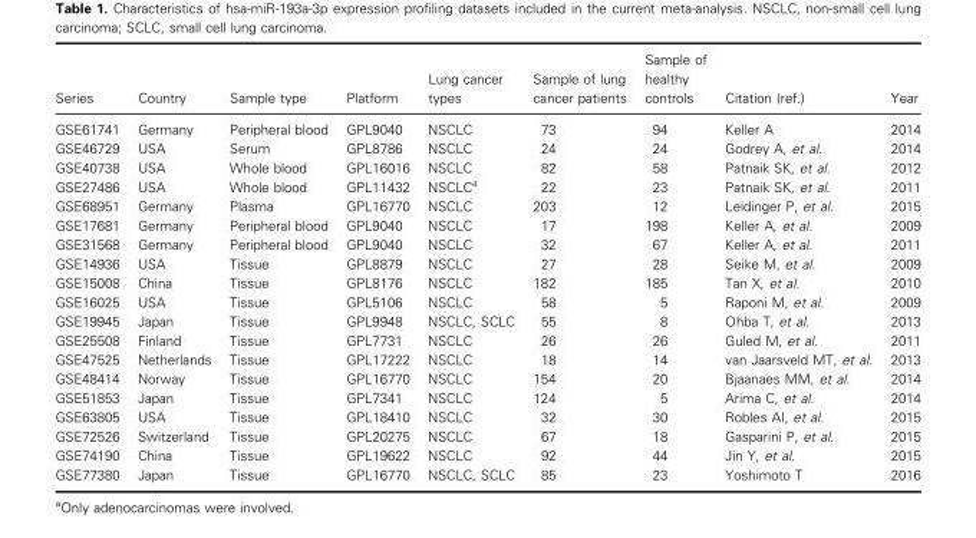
<table><thead><tr><td>Series</td><td>Country</td><td>Sample type</td><td>Platform</td><td>Lung cancer types</td><td>Sample of lung cancer patients</td><td>Sample of healthy controls</td><td>Citation (ref.)</td><td>Year</td></tr></thead><tbody><tr><td>GSE61741</td><td>Germany</td><td>Peripheral blood</td><td>GPL9040</td><td>NSCLC</td><td>73</td><td>94</td><td>Keller A</td><td>2014</td></tr><tr><td>GSE46729</td><td>USA</td><td>Serum</td><td>GPL8786</td><td>NSCLC</td><td>24</td><td>24</td><td>Godrey A, et al.</td><td>2014</td></tr><tr><td>GSE40738</td><td>USA</td><td>Whole blood</td><td>GPL16016</td><td>NSCLC</td><td>82</td><td>58</td><td>Patnaik SK, et al.</td><td>2012</td></tr><tr><td>GSE27486</td><td>USA</td><td>Whole blood</td><td>GPL11432</td><td>NSCLC<sup>a</sup></td><td>22</td><td>23</td><td>Patnaik SK, et al.</td><td>2011</td></tr><tr><td>GSE68951</td><td>Germany</td><td>Plasma</td><td>GPL16770</td><td>NSCLC</td><td>203</td><td>12</td><td>Leidinger P, et al.</td><td>2015</td></tr><tr><td>GSE17681</td><td>Germany</td><td>Peripheral blood</td><td>GPL9040</td><td>NSCLC</td><td>17</td><td>198</td><td>Keller A, et al.</td><td>2009</td></tr><tr><td>GSE31568</td><td>Germany</td><td>Peripheral blood</td><td>GPL9040</td><td>NSCLC</td><td>32</td><td>67</td><td>Keller A, et al.</td><td>2011</td></tr><tr><td>GSE14936</td><td>USA</td><td>Tissue</td><td>GPL8879</td><td>NSCLC</td><td>27</td><td>28</td><td>Seike M, et al.</td><td>2009</td></tr><tr><td>GSE15008</td><td>China</td><td>Tissue</td><td>GPL8176</td><td>NSCLC</td><td>182</td><td>185</td><td>Tan X, et al.</td><td>2010</td></tr><tr><td>GSE16025</td><td>USA</td><td>Tissue</td><td>GPL5106</td><td>NSCLC</td><td>58</td><td>5</td><td>Raponi M, et al.</td><td>2009</td></tr><tr><td>GSE19945</td><td>Japan</td><td>Tissue</td><td>GPL9948</td><td>NSCLC, SCLC</td><td>55</td><td>8</td><td>Ohba T, et al.</td><td>2013</td></tr><tr><td>GSE25508</td><td>Finland</td><td>Tissue</td><td>GPL7731</td><td>NSCLC</td><td>26</td><td>26</td><td>Guled M, et al.</td><td>2011</td></tr><tr><td>GSE47525</td><td>Netherlands</td><td>Tissue</td><td>GPL17222</td><td>NSCLC</td><td>18</td><td>14</td><td>van Jaarsveld MT, et al.</td><td>2013</td></tr><tr><td>GSE48414</td><td>Norway</td><td>Tissue</td><td>GPL16770</td><td>NSCLC</td><td>154</td><td>20</td><td>Bjaanaes MM, et al.</td><td>2014</td></tr><tr><td>GSE51853</td><td>Japan</td><td>Tissue</td><td>GPL7341</td><td>NSCLC</td><td>124</td><td>5</td><td>Arima C, et al.</td><td>2014</td></tr><tr><td>GSE63805</td><td>USA</td><td>Tissue</td><td>GPL18410</td><td>NSCLC</td><td>32</td><td>30</td><td>Robles AI, et al.</td><td>2015</td></tr><tr><td>GSE72526</td><td>Switzerland</td><td>Tissue</td><td>GPL20275</td><td>NSCLC</td><td>67</td><td>18</td><td>Gasparini P, et al.</td><td>2015</td></tr><tr><td>GSE74190</td><td>China</td><td>Tissue</td><td>GPL19622</td><td>NSCLC</td><td>92</td><td>44</td><td>Jin Y, et al.</td><td>2015</td></tr><tr><td>GSE77380</td><td>Japan</td><td>Tissue</td><td>GPL16770</td><td>NSCLC, SCLC</td><td>85</td><td>23</td><td>Yoshimoto T</td><td>2016</td></tr></tbody></table>